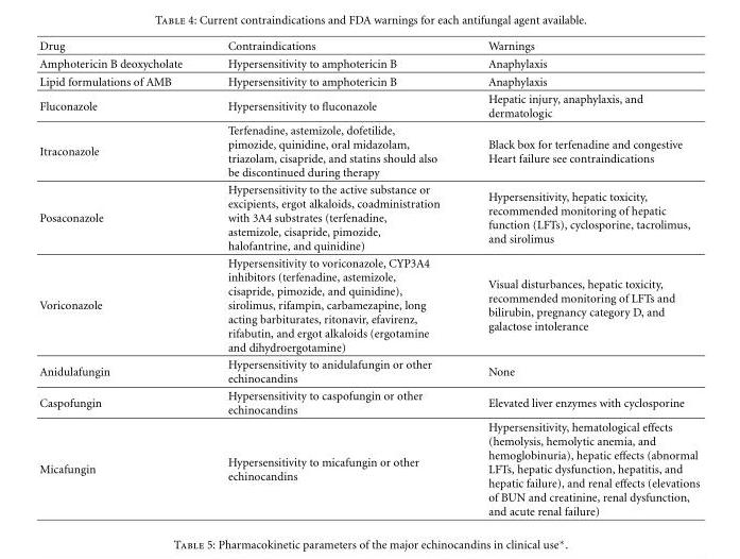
<table><thead><tr><td>Drug</td><td>Contraindications</td><td>Warnings</td></tr></thead><tbody><tr><td>Amphotericin B deoxycholate</td><td>Hypersensitivity to amphotericin B</td><td>Anaphylaxis</td></tr><tr><td>Lipid formulations of AMB</td><td>Hypersensitivity to amphotericin B</td><td>Anaphylaxis</td></tr><tr><td>Fluconazole</td><td>Hypersensitivity to fluconazole</td><td>Hepatic injury, anaphylaxis, and dermatologic</td></tr><tr><td>Itraconazole</td><td>Terfenadine, astemizole, dofetilide, pimozide, quinidine, oral midazolam, triazolam, cisapride, and statins should also be discontinued during therapy</td><td>Black box for terfenadine and congestive Heart failure see contraindications</td></tr><tr><td>Posaconazole</td><td>Hypersensitivity to the active substance or excipients, ergot alkaloids, coadministration with 3A4 substrates (terfenadine, astemizole, cisapride, pimozide, halofantrine, and quinidine)</td><td>Hypersensitivity, hepatic toxicity, recommended monitoring of hepatic function (LFTs), cyclosporine, tacrolimus, and sirolimus</td></tr><tr><td>Voriconazole</td><td>Hypersensitivity to voriconazole, CYP3A4 inhibitors (terfenadine, astemizole, cisapride, pimozide, and quinidine), sirolimus, rifampin, carbamezapine, long acting barbiturates, ritonavir, efavirenz, rifabutin, and ergot alkaloids (ergotamine and dihydroergotamine)</td><td>Visual disturbances, hepatic toxicity, recommended monitoring of LFTs and bilirubin, pregnancy category D, and galactose intolerance</td></tr><tr><td>Anidulafungin</td><td>Hypersensitivity to anidulafungin or other echinocandins</td><td>None</td></tr><tr><td>Caspofungin</td><td>Hypersensitivity to caspofungin or other echinocandins</td><td>Elevated liver enzymes with cyclosporine</td></tr><tr><td>Micafungin</td><td>Hypersensitivity to micafungin or other echinocandins</td><td>Hypersensitivity, hematological effects (hemolysis, hemolytic anemia, and hemoglobinuria), hepatic effects (abnormal LFTs, hepatic dysfunction, hepatitis, and hepatic failure), and renal effects (elevations of BUN and creatinine, renal dysfunction, and acute renal failure)</td></tr></tbody></table>